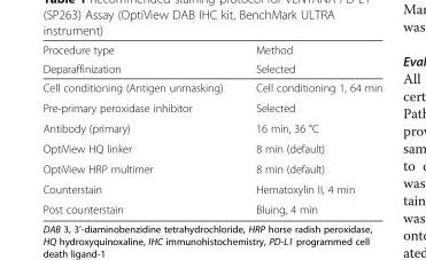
<table><thead><tr><td rowspan="2">Procedure type Deparaffinization</td><td rowspan="2">Method Selected</td></tr><tr></tr></thead><tbody><tr><td>Cell conditioning (Antigen unmasking)</td><td>Cell conditioning 1, 64 min</td></tr><tr><td>Pre-primary peroxidase inhibitor</td><td>Selected</td></tr><tr><td>Antibody (primary)</td><td>16 min, 36 °C</td></tr><tr><td>OptiView HQ linker</td><td>8 min (default)</td></tr><tr><td>OptiView HRP multimer</td><td>8 min (default)</td></tr><tr><td>Counterstain</td><td>Hematoxylin II, 4 min</td></tr><tr><td>Post counterstain</td><td>Bluing, 4 min</td></tr></tbody></table>